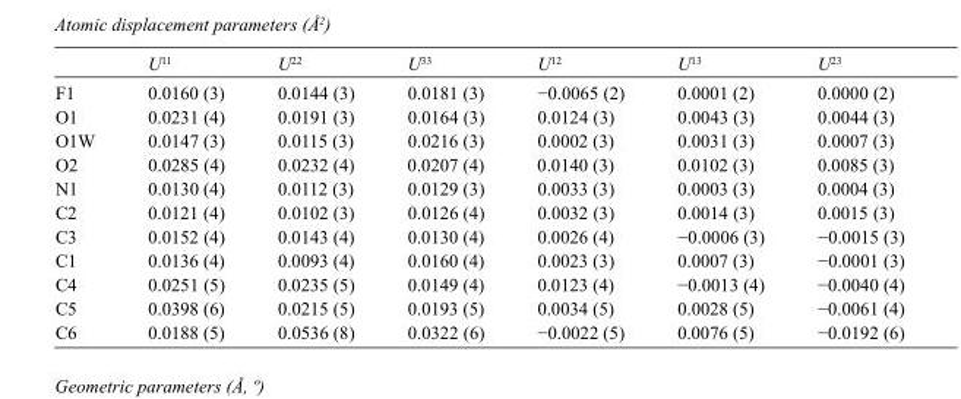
<table><thead><tr><td></td><td>U<sup>11</sup></td><td>U<sup>22</sup></td><td>U<sup>33</sup></td><td>U<sup>12</sup></td><td>U<sup>13</sup></td><td>U<sup>23</sup></td></tr></thead><tbody><tr><td>F1</td><td>0.0160 (3)</td><td>0.0144 (3)</td><td>0.0181 (3)</td><td>−0.0065 (2)</td><td>0.0001 (2)</td><td>0.0000 (2)</td></tr><tr><td>O1</td><td>0.0231 (4)</td><td>0.0191 (3)</td><td>0.0164 (3)</td><td>0.0124 (3)</td><td>0.0043 (3)</td><td>0.0044 (3)</td></tr><tr><td>O1W</td><td>0.0147 (3)</td><td>0.0115 (3)</td><td>0.0216 (3)</td><td>0.0002 (3)</td><td>0.0031 (3)</td><td>0.0007 (3)</td></tr><tr><td>O2</td><td>0.0285 (4)</td><td>0.0232 (4)</td><td>0.0207 (4)</td><td>0.0140 (3)</td><td>0.0102 (3)</td><td>0.0085 (3)</td></tr><tr><td>N1</td><td>0.0130 (4)</td><td>0.0112 (3)</td><td>0.0129 (3)</td><td>0.0033 (3)</td><td>0.0003 (3)</td><td>0.0004 (3)</td></tr><tr><td>C2</td><td>0.0121 (4)</td><td>0.0102 (3)</td><td>0.0126 (4)</td><td>0.0032 (3)</td><td>0.0014 (3)</td><td>0.0015 (3)</td></tr><tr><td>C3</td><td>0.0152 (4)</td><td>0.0143 (4)</td><td>0.0130 (4)</td><td>0.0026 (4)</td><td>−0.0006 (3)</td><td>−0.0015 (3)</td></tr><tr><td>C1</td><td>0.0136 (4)</td><td>0.0093 (4)</td><td>0.0160 (4)</td><td>0.0023 (3)</td><td>0.0007 (3)</td><td>−0.0001 (3)</td></tr><tr><td>C4</td><td>0.0251 (5)</td><td>0.0235 (5)</td><td>0.0149 (4)</td><td>0.0123 (4)</td><td>−0.0013 (4)</td><td>−0.0040 (4)</td></tr><tr><td>C5</td><td>0.0398 (6)</td><td>0.0215 (5)</td><td>0.0193 (5)</td><td>0.0034 (5)</td><td>0.0028 (5)</td><td>−0.0061 (4)</td></tr><tr><td>C6</td><td>0.0188 (5)</td><td>0.0536 (8)</td><td>0.0322 (6)</td><td>−0.0022 (5)</td><td>0.0076 (5)</td><td>−0.0192 (6)</td></tr></tbody></table>